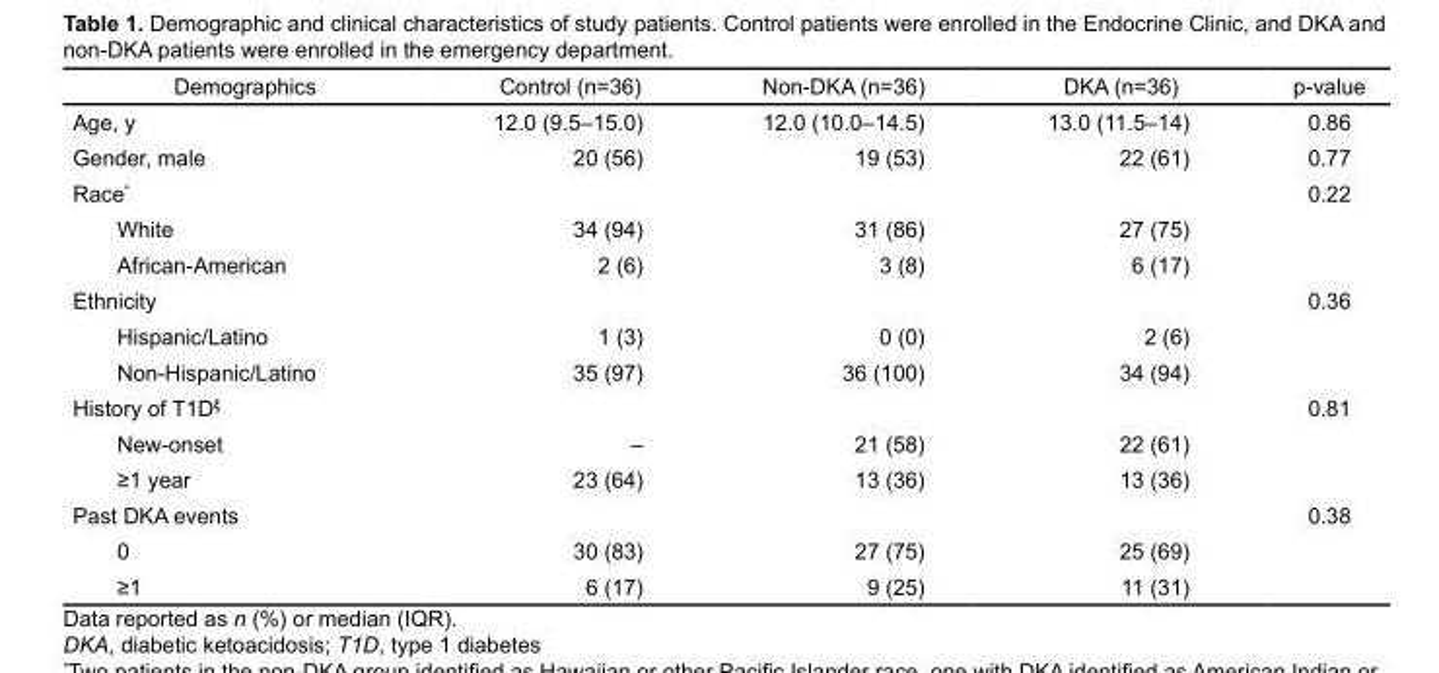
<table><thead><tr><td>Demographics</td><td>Control (n=36)</td><td>Non-DKA (n=36)</td><td>DKA (n=36)</td><td>p-value</td></tr></thead><tbody><tr><td>Age, y</td><td>12.0 (9.5–15.0)</td><td>12.0 (10.0–14.5)</td><td>13.0 (11.5–14)</td><td>0.86</td></tr><tr><td>Gender, male</td><td>20 (56)</td><td>19 (53)</td><td>22 (61)</td><td>0.77</td></tr><tr><td>Race*</td><td></td><td></td><td></td><td>0.22</td></tr><tr><td>White</td><td>34 (94)</td><td>31 (86)</td><td>27 (75)</td><td></td></tr><tr><td>African-American</td><td>2 (6)</td><td>3 (8)</td><td>6 (17)</td><td></td></tr><tr><td>Ethnicity</td><td></td><td></td><td></td><td>0.36</td></tr><tr><td>Hispanic/Latino</td><td>1 (3)</td><td>0 (0)</td><td>2 (6)</td><td></td></tr><tr><td>Non-Hispanic/Latino</td><td>35 (97)</td><td>36 (100)</td><td>34 (94)</td><td></td></tr><tr><td>History of T1Dξ</td><td></td><td></td><td></td><td>0.81</td></tr><tr><td>New-onset</td><td>–</td><td>21 (58)</td><td>22 (61)</td><td></td></tr><tr><td>≥1 year</td><td>23 (64)</td><td>13 (36)</td><td>13 (36)</td><td></td></tr><tr><td>Past DKA events</td><td></td><td></td><td></td><td>0.38</td></tr><tr><td>0</td><td>30 (83)</td><td>27 (75)</td><td>25 (69)</td><td></td></tr><tr><td>≥1</td><td>6 (17)</td><td>9 (25)</td><td>11 (31)</td><td></td></tr></tbody></table>